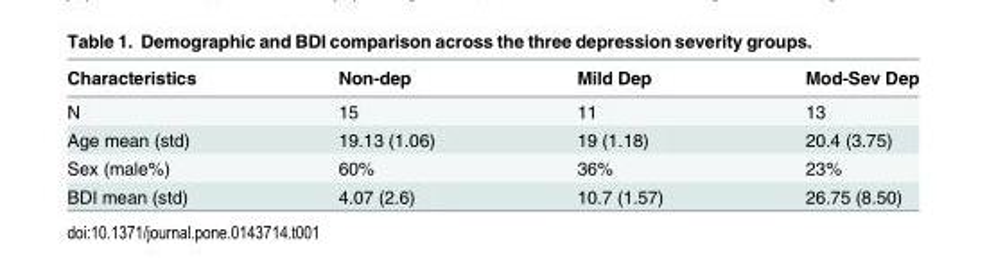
<table><thead><tr><td>Characteristics</td><td>Non-dep</td><td>Mild Dep</td><td>Mod-Sev Dep</td></tr></thead><tbody><tr><td>N</td><td>15</td><td>11</td><td>13</td></tr><tr><td>Age mean (std)</td><td>19.13 (1.06)</td><td>19 (1.18)</td><td>20.4 (3.75)</td></tr><tr><td>Sex (male%)</td><td>60%</td><td>36%</td><td>23%</td></tr><tr><td>BDI mean (std)</td><td>4.07 (2.6)</td><td>10.7 (1.57)</td><td>26.75 (8.50)</td></tr></tbody></table>